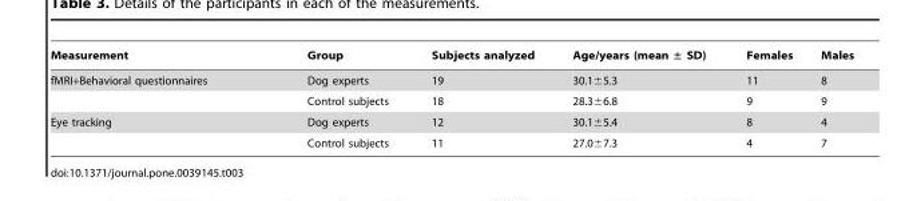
<table><thead><tr><td>Measurement</td><td>Group</td><td>Subjects analyzed</td><td>Age/years (mean ± SD)</td><td>Females</td><td>Males</td></tr></thead><tbody><tr><td rowspan="2">fMRI+Behavioral questionnaires</td><td>Dog experts</td><td>19</td><td>30.1±5.3</td><td>11</td><td>8</td></tr><tr><td>Control subjects</td><td>18</td><td>28.3±6.8</td><td>9</td><td>9</td></tr><tr><td rowspan="2">Eye tracking</td><td>Dog experts</td><td>12</td><td>30.1±5.4</td><td>8</td><td>4</td></tr><tr><td>Control subjects</td><td>11</td><td>27.0±7.3</td><td>4</td><td>7</td></tr></tbody></table>